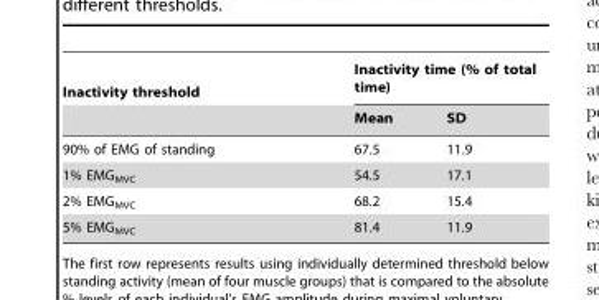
<table><thead><tr><td rowspan="2">Inactivity threshold</td><td colspan="2">Inactivity time (% of total time)</td></tr><tr><td>Mean</td><td>SD</td></tr></thead><tbody><tr><td>90% of EMG of standing</td><td>67.5</td><td>11.9</td></tr><tr><td>1% EMG<sub>MVC</sub></td><td>54.5</td><td>17.1</td></tr><tr><td>2% EMG<sub>MVC</sub></td><td>68.2</td><td>15.4</td></tr><tr><td>5% EMG<sub>MVC</sub></td><td>81.4</td><td>11.9</td></tr></tbody></table>